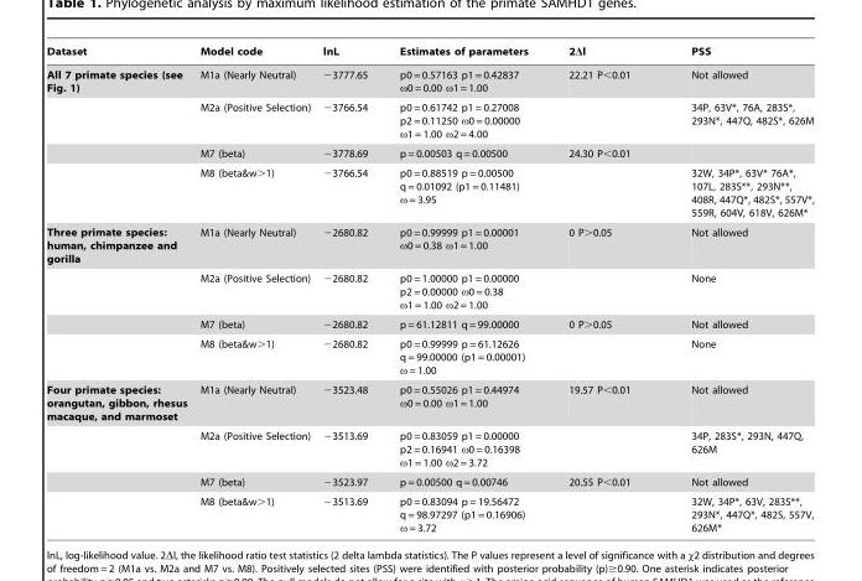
<table><thead><tr><td>Dataset</td><td>Model code</td><td>lnL</td><td>Estimates of parameters</td><td>2Δl</td><td>PSS</td></tr></thead><tbody><tr><td rowspan="4">All 7 primate species (see Fig. 1)</td><td>M1a (Nearly Neutral)</td><td>−3777.65</td><td>p0 = 0.57163 p1 = 0.42837 ω0 = 0.00 ω1 = 1.00</td><td>22.21 P&lt;0.01</td><td>Not allowed</td></tr><tr><td>M2a (Positive Selection)</td><td>−3766.54</td><td>p0 = 0.61742 p1 = 0.27008 p2 = 0.11250 ω0 = 0.00000 ω1 = 1.00 ω2 = 4.00</td><td></td><td>34P, 63V*, 76A, 283S*, 293N*, 447Q, 482S*, 626M</td></tr><tr><td>M7 (beta)</td><td>−3778.69</td><td>p = 0.00503 q = 0.00500</td><td>24.30 P&lt;0.01</td><td></td></tr><tr><td>M8 (beta&amp;w&gt;1)</td><td>−3766.54</td><td>p0 = 0.88519 p = 0.00500 q = 0.01092 (p1 = 0.11481) ω = 3.95</td><td></td><td>32W, 34P*, 63V* 76A*, 107L, 283S**, 293N**, 408R, 447Q*, 482S*, 557V*, 559R, 604V, 618V, 626M*</td></tr><tr><td rowspan="4">Three primate species: human, chimpanzee and gorilla</td><td>M1a (Nearly Neutral)</td><td>−2680.82</td><td>p0 = 0.99999 p1 = 0.00001 ω0 = 0.38 ω1 = 1.00</td><td>0 P&gt;0.05</td><td>Not allowed</td></tr><tr><td>M2a (Positive Selection)</td><td>−2680.82</td><td>p0 = 1.00000 p1 = 0.00000 p2 = 0.00000 ω0 = 0.38 ω1 = 1.00 ω2 = 1.00</td><td></td><td>None</td></tr><tr><td>M7 (beta)</td><td>−2680.82</td><td>p = 61.12811 q = 99.00000</td><td>0 P&gt;0.05</td><td>Not allowed</td></tr><tr><td>M8 (beta&amp;w&gt;1)</td><td>−2680.82</td><td>p0 = 0.99999 p = 61.12626 q = 99.00000 (p1 = 0.00001) ω = 1.00</td><td></td><td>None</td></tr><tr><td rowspan="4">Four primate species: orangutan, gibbon, rhesus macaque, and marmoset</td><td>M1a (Nearly Neutral)</td><td>−3523.48</td><td>p0 = 0.55026 p1 = 0.44974 ω0 = 0.00 ω1 = 1.00</td><td>19.57 P&lt;0.01</td><td>Not allowed</td></tr><tr><td>M2a (Positive Selection)</td><td>−3513.69</td><td>p0 = 0.83059 p1 = 0.00000 p2 = 0.16941 ω0 = 0.16398 ω1 = 1.00 ω2 = 3.72</td><td></td><td>34P, 283S*, 293N, 447Q, 626M</td></tr><tr><td>M7 (beta)</td><td>−3523.97</td><td>p = 0.00500 q = 0.00746</td><td>20.55 P&lt;0.01</td><td>Not allowed</td></tr><tr><td>M8 (beta&amp;w&gt;1)</td><td>−3513.69</td><td>p0 = 0.83094 p = 19.56472 q = 98.97297 (p1 = 0.16906) ω = 3.72</td><td></td><td>32W, 34P*, 63V, 283S**, 293N*, 447Q*, 482S, 557V, 626M*</td></tr></tbody></table>